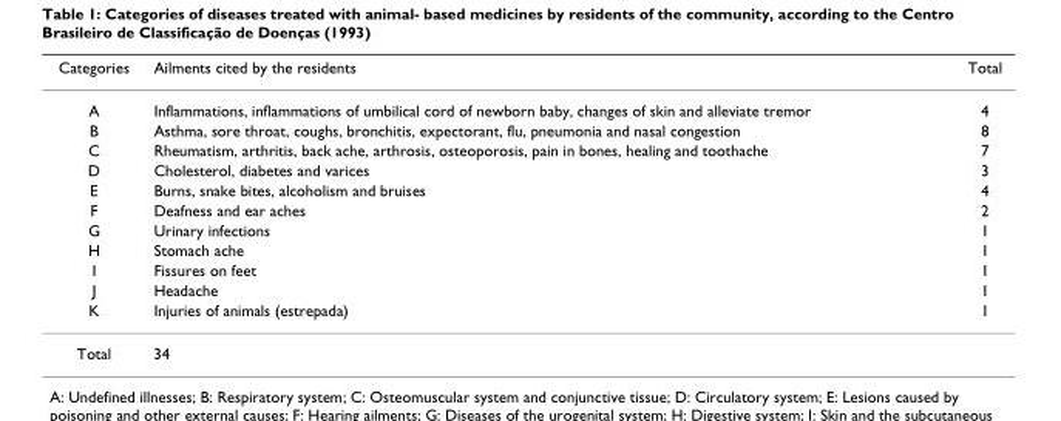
<table><thead><tr><td>Categories</td><td>Ailments cited by the residents</td><td>Total</td></tr></thead><tbody><tr><td>A</td><td>Inflammations, inflammations of umbilical cord of newborn baby, changes of skin and alleviate tremor</td><td>4</td></tr><tr><td>B</td><td>Asthma, sore throat, coughs, bronchitis, expectorant, flu, pneumonia and nasal congestion</td><td>8</td></tr><tr><td>C</td><td>Rheumatism, arthritis, back ache, arthrosis, osteoporosis, pain in bones, healing and toothache</td><td>7</td></tr><tr><td>D</td><td>Cholesterol, diabetes and varices</td><td>3</td></tr><tr><td>E</td><td>Burns, snake bites, alcoholism and bruises</td><td>4</td></tr><tr><td>F</td><td>Deafness and ear aches</td><td>2</td></tr><tr><td>G</td><td>Urinary infections</td><td>1</td></tr><tr><td>H</td><td>Stomach ache</td><td>1</td></tr><tr><td>I</td><td>Fissures on feet</td><td>1</td></tr><tr><td>J</td><td>Headache</td><td>1</td></tr><tr><td>K</td><td>Injuries of animals (estrepada)</td><td>1</td></tr><tr><td>Total</td><td>34</td><td></td></tr></tbody></table>